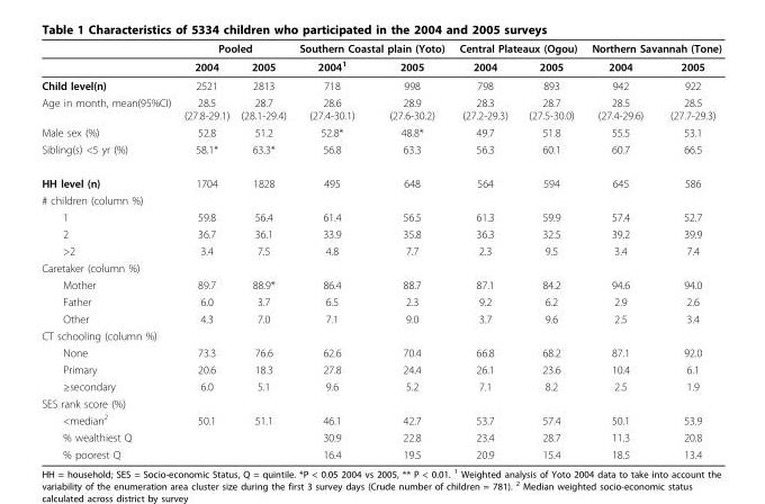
<table><thead><tr><td rowspan="2"></td><td colspan="2">Pooled</td><td colspan="2">Southern Coastal plain (Yoto)</td><td colspan="2">Central Plateaux (Ogou)</td><td colspan="2">Northern Savannah (Tone)</td></tr><tr><td>2004</td><td>2005</td><td>2004<sup>1</sup></td><td>2005</td><td>2004</td><td>2005</td><td>2004</td><td>2005</td></tr></thead><tbody><tr><td>Child level(n)</td><td>2521</td><td>2813</td><td>718</td><td>998</td><td>798</td><td>893</td><td>942</td><td>922</td></tr><tr><td>Age in month, mean(95%CI)</td><td>28.5 (27.8-29.1)</td><td>28.7 (28.1-29.4)</td><td>28.6 (27.4-30.1)</td><td>28.9 (27.6-30.2)</td><td>28.3 (27.2-29.3)</td><td>28.7 (27.5-30.0)</td><td>28.5 (27.4-29.6)</td><td>28.5 (27.7-29.3)</td></tr><tr><td>Male sex (%)</td><td>52.8</td><td>51.2</td><td>52.8*</td><td>48.8*</td><td>49.7</td><td>51.8</td><td>55.5</td><td>53.1</td></tr><tr><td>Sibling(s) &lt;5 yr (%)</td><td>58.1*</td><td>63.3*</td><td>56.8</td><td>63.3</td><td>56.3</td><td>60.1</td><td>60.7</td><td>66.5</td></tr><tr><td>HH level (n)</td><td>1704</td><td>1828</td><td>495</td><td>648</td><td>564</td><td>594</td><td>645</td><td>586</td></tr><tr><td colspan="9"># children (column %)</td></tr><tr><td>1</td><td>59.8</td><td>56.4</td><td>61.4</td><td>56.5</td><td>61.3</td><td>59.9</td><td>57.4</td><td>52.7</td></tr><tr><td>2</td><td>36.7</td><td>36.1</td><td>33.9</td><td>35.8</td><td>36.3</td><td>32.5</td><td>39.2</td><td>39.9</td></tr><tr><td>&gt;2</td><td>3.4</td><td>7.5</td><td>4.8</td><td>7.7</td><td>2.3</td><td>9.5</td><td>3.4</td><td>7.4</td></tr><tr><td colspan="9">Caretaker (column %)</td></tr><tr><td>Mother</td><td>89.7</td><td>88.9*</td><td>86.4</td><td>88.7</td><td>87.1</td><td>84.2</td><td>94.6</td><td>94.0</td></tr><tr><td>Father</td><td>6.0</td><td>3.7</td><td>6.5</td><td>2.3</td><td>9.2</td><td>6.2</td><td>2.9</td><td>2.6</td></tr><tr><td>Other</td><td>4.3</td><td>7.0</td><td>7.1</td><td>9.0</td><td>3.7</td><td>9.6</td><td>2.5</td><td>3.4</td></tr><tr><td colspan="9">CT schooling (column %)</td></tr><tr><td>None</td><td>73.3</td><td>76.6</td><td>62.6</td><td>70.4</td><td>66.8</td><td>68.2</td><td>87.1</td><td>92.0</td></tr><tr><td>Primary</td><td>20.6</td><td>18.3</td><td>27.8</td><td>24.4</td><td>26.1</td><td>23.6</td><td>10.4</td><td>6.1</td></tr><tr><td>≥secondary</td><td>6.0</td><td>5.1</td><td>9.6</td><td>5.2</td><td>7.1</td><td>8.2</td><td>2.5</td><td>1.9</td></tr><tr><td colspan="9">SES rank score (%)</td></tr><tr><td>&lt;median<sup>2</sup></td><td>50.1</td><td>51.1</td><td>46.1</td><td>42.7</td><td>53.7</td><td>57.4</td><td>50.1</td><td>53.9</td></tr><tr><td>% wealthiest Q</td><td></td><td></td><td>30.9</td><td>22.8</td><td>23.4</td><td>28.7</td><td>11.3</td><td>20.8</td></tr><tr><td>% poorest Q</td><td></td><td></td><td>16.4</td><td>19.5</td><td>20.9</td><td>15.4</td><td>18.5</td><td>13.4</td></tr></tbody></table>